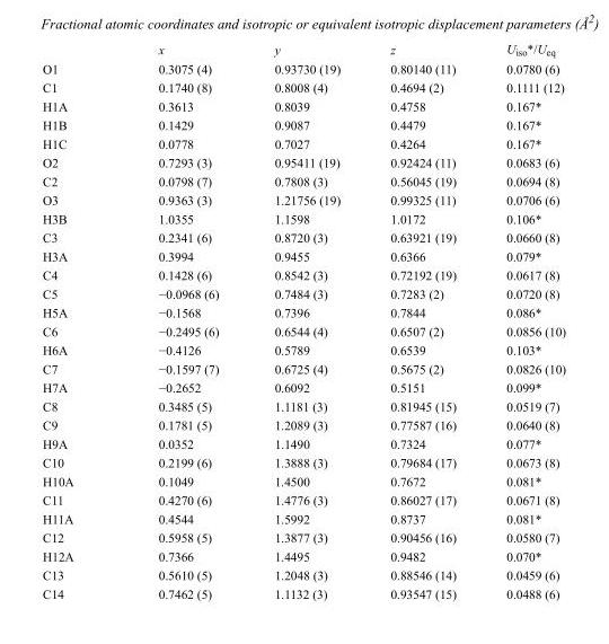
<table><thead><tr><td></td><td>x</td><td>y</td><td>z</td><td>U<sub>iso</sub>*/U<sub>eq</sub></td></tr></thead><tbody><tr><td>O1</td><td>0.3075 (4)</td><td>0.93730 (19)</td><td>0.80140 (11)</td><td>0.0780 (6)</td></tr><tr><td>C1</td><td>0.1740 (8)</td><td>0.8008 (4)</td><td>0.4694 (2)</td><td>0.1111 (12)</td></tr><tr><td>H1A</td><td>0.3613</td><td>0.8039</td><td>0.4758</td><td>0.167*</td></tr><tr><td>H1B</td><td>0.1429</td><td>0.9087</td><td>0.4479</td><td>0.167*</td></tr><tr><td>H1C</td><td>0.0778</td><td>0.7027</td><td>0.4264</td><td>0.167*</td></tr><tr><td>O2</td><td>0.7293 (3)</td><td>0.95411 (19)</td><td>0.92424 (11)</td><td>0.0683 (6)</td></tr><tr><td>C2</td><td>0.0798 (7)</td><td>0.7808 (3)</td><td>0.56045 (19)</td><td>0.0694 (8)</td></tr><tr><td>O3</td><td>0.9363 (3)</td><td>1.21756 (19)</td><td>0.99325 (11)</td><td>0.0706 (6)</td></tr><tr><td>H3B</td><td>1.0355</td><td>1.1598</td><td>1.0172</td><td>0.106*</td></tr><tr><td>C3</td><td>0.2341 (6)</td><td>0.8720 (3)</td><td>0.63921 (19)</td><td>0.0660 (8)</td></tr><tr><td>H3A</td><td>0.3994</td><td>0.9455</td><td>0.6366</td><td>0.079*</td></tr><tr><td>C4</td><td>0.1428 (6)</td><td>0.8542 (3)</td><td>0.72192 (19)</td><td>0.0617 (8)</td></tr><tr><td>C5</td><td>−0.0968 (6)</td><td>0.7484 (3)</td><td>0.7283 (2)</td><td>0.0720 (8)</td></tr><tr><td>H5A</td><td>−0.1568</td><td>0.7396</td><td>0.7844</td><td>0.086*</td></tr><tr><td>C6</td><td>−0.2495 (6)</td><td>0.6544 (4)</td><td>0.6507 (2)</td><td>0.0856 (10)</td></tr><tr><td>H6A</td><td>−0.4126</td><td>0.5789</td><td>0.6539</td><td>0.103*</td></tr><tr><td>C7</td><td>−0.1597 (7)</td><td>0.6725 (4)</td><td>0.5675 (2)</td><td>0.0826 (10)</td></tr><tr><td>H7A</td><td>−0.2652</td><td>0.6092</td><td>0.5151</td><td>0.099*</td></tr><tr><td>C8</td><td>0.3485 (5)</td><td>1.1181 (3)</td><td>0.81945 (15)</td><td>0.0519 (7)</td></tr><tr><td>C9</td><td>0.1781 (5)</td><td>1.2089 (3)</td><td>0.77587 (16)</td><td>0.0640 (8)</td></tr><tr><td>H9A</td><td>0.0352</td><td>1.1490</td><td>0.7324</td><td>0.077*</td></tr><tr><td>C10</td><td>0.2199 (6)</td><td>1.3888 (3)</td><td>0.79684 (17)</td><td>0.0673 (8)</td></tr><tr><td>H10A</td><td>0.1049</td><td>1.4500</td><td>0.7672</td><td>0.081*</td></tr><tr><td>C11</td><td>0.4270 (6)</td><td>1.4776 (3)</td><td>0.86027 (17)</td><td>0.0671 (8)</td></tr><tr><td>H11A</td><td>0.4544</td><td>1.5992</td><td>0.8737</td><td>0.081*</td></tr><tr><td>C12</td><td>0.5958 (5)</td><td>1.3877 (3)</td><td>0.90456 (16)</td><td>0.0580 (7)</td></tr><tr><td>H12A</td><td>0.7366</td><td>1.4495</td><td>0.9482</td><td>0.070*</td></tr><tr><td>C13</td><td>0.5610 (5)</td><td>1.2048 (3)</td><td>0.88546 (14)</td><td>0.0459 (6)</td></tr><tr><td>C14</td><td>0.7462 (5)</td><td>1.1132 (3)</td><td>0.93547 (15)</td><td>0.0488 (6)</td></tr></tbody></table>